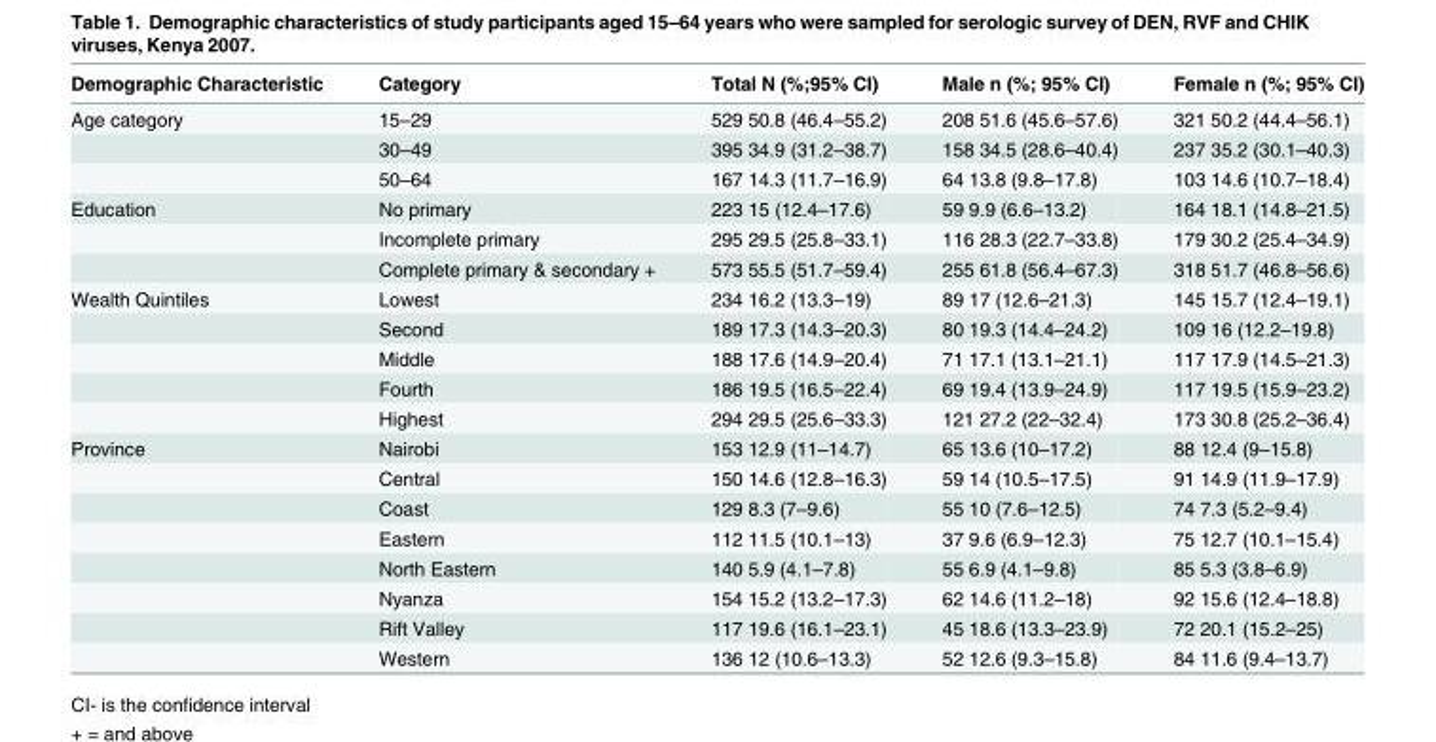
<table><thead><tr><td>Demographic Characteristic</td><td>Category</td><td>Total N (%;95% CI)</td><td>Male n (%; 95% CI)</td><td>Female n (%; 95% CI)</td></tr></thead><tbody><tr><td rowspan="3">Age category</td><td>15–29</td><td>529 50.8 (46.4–55.2)</td><td>208 51.6 (45.6–57.6)</td><td>321 50.2 (44.4–56.1)</td></tr><tr><td>30–49</td><td>395 34.9 (31.2–38.7)</td><td>158 34.5 (28.6–40.4)</td><td>237 35.2 (30.1–40.3)</td></tr><tr><td>50–64</td><td>167 14.3 (11.7–16.9)</td><td>64 13.8 (9.8–17.8)</td><td>103 14.6 (10.7–18.4)</td></tr><tr><td rowspan="3">Education</td><td>No primary</td><td>223 15 (12.4–17.6)</td><td>59 9.9 (6.6–13.2)</td><td>164 18.1 (14.8–21.5)</td></tr><tr><td>Incomplete primary</td><td>295 29.5 (25.8–33.1)</td><td>116 28.3 (22.7–33.8)</td><td>179 30.2 (25.4–34.9)</td></tr><tr><td>Complete primary &amp; secondary +</td><td>573 55.5 (51.7–59.4)</td><td>255 61.8 (56.4–67.3)</td><td>318 51.7 (46.8–56.6)</td></tr><tr><td rowspan="5">Wealth Quintiles</td><td>Lowest</td><td>234 16.2 (13.3–19)</td><td>89 17 (12.6–21.3)</td><td>145 15.7 (12.4–19.1)</td></tr><tr><td>Second</td><td>189 17.3 (14.3–20.3)</td><td>80 19.3 (14.4–24.2)</td><td>109 16 (12.2–19.8)</td></tr><tr><td>Middle</td><td>188 17.6 (14.9–20.4)</td><td>71 17.1 (13.1–21.1)</td><td>117 17.9 (14.5–21.3)</td></tr><tr><td>Fourth</td><td>186 19.5 (16.5–22.4)</td><td>69 19.4 (13.9–24.9)</td><td>117 19.5 (15.9–23.2)</td></tr><tr><td>Highest</td><td>294 29.5 (25.6–33.3)</td><td>121 27.2 (22–32.4)</td><td>173 30.8 (25.2–36.4)</td></tr><tr><td rowspan="8">Province</td><td>Nairobi</td><td>153 12.9 (11–14.7)</td><td>65 13.6 (10–17.2)</td><td>88 12.4 (9–15.8)</td></tr><tr><td>Central</td><td>150 14.6 (12.8–16.3)</td><td>59 14 (10.5–17.5)</td><td>91 14.9 (11.9–17.9)</td></tr><tr><td>Coast</td><td>129 8.3 (7–9.6)</td><td>55 10 (7.6–12.5)</td><td>74 7.3 (5.2–9.4)</td></tr><tr><td>Eastern</td><td>112 11.5 (10.1–13)</td><td>37 9.6 (6.9–12.3)</td><td>75 12.7 (10.1–15.4)</td></tr><tr><td>North Eastern</td><td>140 5.9 (4.1–7.8)</td><td>55 6.9 (4.1–9.8)</td><td>85 5.3 (3.8–6.9)</td></tr><tr><td>Nyanza</td><td>154 15.2 (13.2–17.3)</td><td>62 14.6 (11.2–18)</td><td>92 15.6 (12.4–18.8)</td></tr><tr><td>Rift Valley</td><td>117 19.6 (16.1–23.1)</td><td>45 18.6 (13.3–23.9)</td><td>72 20.1 (15.2–25)</td></tr><tr><td>Western</td><td>136 12 (10.6–13.3)</td><td>52 12.6 (9.3–15.8)</td><td>84 11.6 (9.4–13.7)</td></tr></tbody></table>